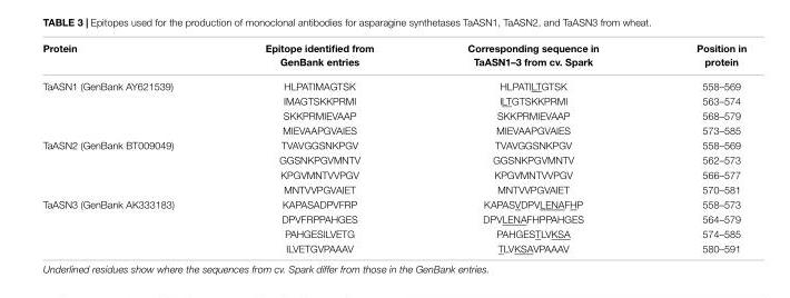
<table><thead><tr><td>Protein</td><td>Epitope identified from GenBank entries</td><td>Corresponding sequence in TaASN1–3 from cv. Spark</td><td>Position in protein</td></tr></thead><tbody><tr><td rowspan="4">TaASN1 (GenBank AY621539)</td><td>HLPATIMAGTSK</td><td>HLPATILTGTSK</td><td>558–569</td></tr><tr><td>IMAGTSKKPRMI</td><td>ILTGTSKKPRMI</td><td>563–574</td></tr><tr><td>SKKPRMIEVAAP</td><td>SKKPRMIEVAAP</td><td>568–579</td></tr><tr><td>MIEVAAPGVAIES</td><td>MIEVAAPGVAIES</td><td>573–585</td></tr><tr><td rowspan="4">TaASN2 (GenBank BT009049)</td><td>TVAVGGSNKPGV</td><td>TVAVGGSNKPGV</td><td>558–569</td></tr><tr><td>GGSNKPGVMNTV</td><td>GGSNKPGVMNTV</td><td>562–573</td></tr><tr><td>KPGVMNTVVPGV</td><td>KPGVMNTVVPGV</td><td>566–577</td></tr><tr><td>MNTVVPGVAIET</td><td>MNTVVPGVAIET</td><td>570–581</td></tr><tr><td rowspan="4">TaASN3 (GenBank AK333183)</td><td>KAPASADPVFRP</td><td>KAPASVDPVLENAFHP</td><td>558–573</td></tr><tr><td>DPVFRPPAHGES</td><td>DPVLENAFHPPAHGES</td><td>564–579</td></tr><tr><td>PAHGESILVETG</td><td>PAHGESTLVKSA</td><td>574–585</td></tr><tr><td>ILVETGVPAAAV</td><td>TLVKSAVPAAAV</td><td>580–591</td></tr></tbody></table>